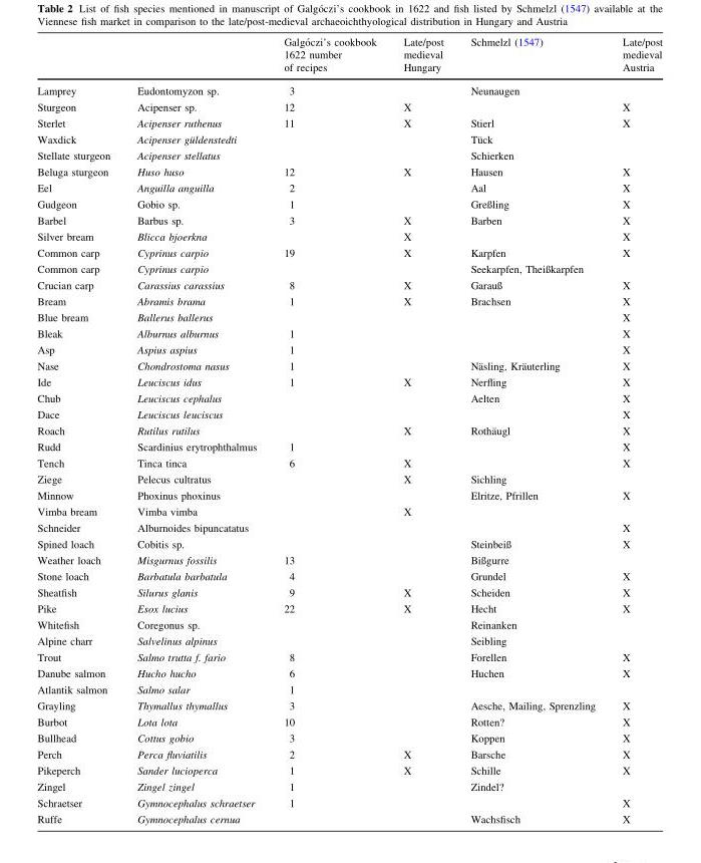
<table><thead><tr><td></td><td></td><td>Galgo´czi’s cookbook 1622 number of recipes</td><td>Late/post medieval Hungary</td><td>Schmelzl (1547)</td><td>Late/post medieval Austria</td></tr></thead><tbody><tr><td>Lamprey</td><td>Eudontomyzon sp.</td><td>3</td><td></td><td>Neunaugen</td><td></td></tr><tr><td>Sturgeon</td><td>Acipenser sp.</td><td>12</td><td>X</td><td></td><td>X</td></tr><tr><td>Sterlet</td><td>Acipenser ruthenus</td><td>11</td><td>X</td><td>Stierl</td><td>X</td></tr><tr><td>Waxdick</td><td>Acipenser gu¨ldenstedti</td><td></td><td></td><td>Tu¨ck</td><td></td></tr><tr><td>Stellate sturgeon</td><td>Acipenser stellatus</td><td></td><td></td><td>Schierken</td><td></td></tr><tr><td>Beluga sturgeon</td><td>Huso huso</td><td>12</td><td>X</td><td>Hausen</td><td>X</td></tr><tr><td>Eel</td><td>Anguilla anguilla</td><td>2</td><td></td><td>Aal</td><td>X</td></tr><tr><td>Gudgeon</td><td>Gobio sp.</td><td>1</td><td></td><td>Greßling</td><td>X</td></tr><tr><td>Barbel</td><td>Barbus sp.</td><td>3</td><td>X</td><td>Barben</td><td>X</td></tr><tr><td>Silver bream</td><td>Blicca bjoerkna</td><td></td><td>X</td><td></td><td>X</td></tr><tr><td>Common carp</td><td>Cyprinus carpio</td><td>19</td><td>X</td><td>Karpfen</td><td>X</td></tr><tr><td>Common carp</td><td>Cyprinus carpio</td><td></td><td></td><td>Seekarpfen, Theißkarpfen</td><td></td></tr><tr><td>Crucian carp</td><td>Carassius carassius</td><td>8</td><td>X</td><td>Garauß</td><td>X</td></tr><tr><td>Bream</td><td>Abramis brama</td><td>1</td><td>X</td><td>Brachsen</td><td>X</td></tr><tr><td>Blue bream</td><td>Ballerus ballerus</td><td></td><td></td><td></td><td>X</td></tr><tr><td>Bleak</td><td>Alburnus alburnus</td><td>1</td><td></td><td></td><td>X</td></tr><tr><td>Asp</td><td>Aspius aspius</td><td>1</td><td></td><td></td><td>X</td></tr><tr><td>Nase</td><td>Chondrostoma nasus</td><td>1</td><td></td><td>Na¨sling, Kra¨uterling</td><td>X</td></tr><tr><td>Ide</td><td>Leuciscus idus</td><td>1</td><td>X</td><td>Nerfling</td><td>X</td></tr><tr><td>Chub</td><td>Leuciscus cephalus</td><td></td><td></td><td>Aelten</td><td>X</td></tr><tr><td>Dace</td><td>Leuciscus leuciscus</td><td></td><td></td><td></td><td>X</td></tr><tr><td>Roach</td><td>Rutilus rutilus</td><td></td><td>X</td><td>Rotha¨ugl</td><td>X</td></tr><tr><td>Rudd</td><td>Scardinius erytrophthalmus</td><td>1</td><td></td><td></td><td>X</td></tr><tr><td>Tench</td><td>Tinca tinca</td><td>6</td><td>X</td><td></td><td>X</td></tr><tr><td>Ziege</td><td>Pelecus cultratus</td><td></td><td>X</td><td>Sichling</td><td></td></tr><tr><td>Minnow</td><td>Phoxinus phoxinus</td><td></td><td></td><td>Elritze, Pfrillen</td><td>X</td></tr><tr><td>Vimba bream</td><td>Vimba vimba</td><td></td><td>X</td><td></td><td></td></tr><tr><td>Schneider</td><td>Alburnoides bipuncatatus</td><td></td><td></td><td></td><td>X</td></tr><tr><td>Spined loach</td><td>Cobitis sp.</td><td></td><td></td><td>Steinbeiß</td><td>X</td></tr><tr><td>Weather loach</td><td>Misgurnus fossilis</td><td>13</td><td></td><td>Bißgurre</td><td></td></tr><tr><td>Stone loach</td><td>Barbatula barbatula</td><td>4</td><td></td><td>Grundel</td><td>X</td></tr><tr><td>Sheatfish</td><td>Silurus glanis</td><td>9</td><td>X</td><td>Scheiden</td><td>X</td></tr><tr><td>Pike</td><td>Esox lucius</td><td>22</td><td>X</td><td>Hecht</td><td>X</td></tr><tr><td>Whitefish</td><td>Coregonus sp.</td><td></td><td></td><td>Reinanken</td><td></td></tr><tr><td>Alpine charr</td><td>Salvelinus alpinus</td><td></td><td></td><td>Seibling</td><td></td></tr><tr><td>Trout</td><td>Salmo trutta f. fario</td><td>8</td><td></td><td>Forellen</td><td>X</td></tr><tr><td>Danube salmon</td><td>Hucho hucho</td><td>6</td><td></td><td>Huchen</td><td>X</td></tr><tr><td>Atlantik salmon</td><td>Salmo salar</td><td>1</td><td></td><td></td><td></td></tr><tr><td>Grayling</td><td>Thymallus thymallus</td><td>3</td><td></td><td>Aesche, Mailing, Sprenzling</td><td>X</td></tr><tr><td>Burbot</td><td>Lota lota</td><td>10</td><td></td><td>Rotten?</td><td>X</td></tr><tr><td>Bullhead</td><td>Cottus gobio</td><td>3</td><td></td><td>Koppen</td><td>X</td></tr><tr><td>Perch</td><td>Perca fluviatilis</td><td>2</td><td>X</td><td>Barsche</td><td>X</td></tr><tr><td>Pikeperch</td><td>Sander lucioperca</td><td>1</td><td>X</td><td>Schille</td><td>X</td></tr><tr><td>Zingel</td><td>Zingel zingel</td><td>1</td><td></td><td>Zindel?</td><td></td></tr><tr><td>Schraetser</td><td>Gymnocephalus schraetser</td><td>1</td><td></td><td></td><td>X</td></tr><tr><td>Ruffe</td><td>Gymnocephalus cernua</td><td></td><td></td><td>Wachsfisch</td><td>X</td></tr></tbody></table>